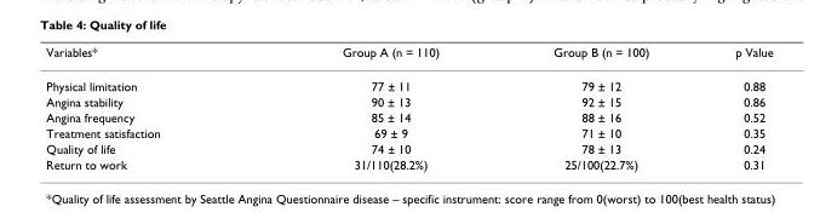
<table><thead><tr><td>Variables*</td><td>Group A (n = 110)</td><td>Group B (n = 100)</td><td>p Value</td></tr></thead><tbody><tr><td>Physical limitation</td><td>77 ± 11</td><td>79 ± 12</td><td>0.88</td></tr><tr><td>Angina stability</td><td>90 ± 13</td><td>92 ± 15</td><td>0.86</td></tr><tr><td>Angina frequency</td><td>85 ± 14</td><td>88 ± 16</td><td>0.52</td></tr><tr><td>Treatment satisfaction</td><td>69 ± 9</td><td>71 ± 10</td><td>0.35</td></tr><tr><td>Quality of life</td><td>74 ± 10</td><td>78 ± 13</td><td>0.24</td></tr><tr><td>Return to work</td><td>31/110(28.2%)</td><td>25/100(22.7%)</td><td>0.31</td></tr></tbody></table>